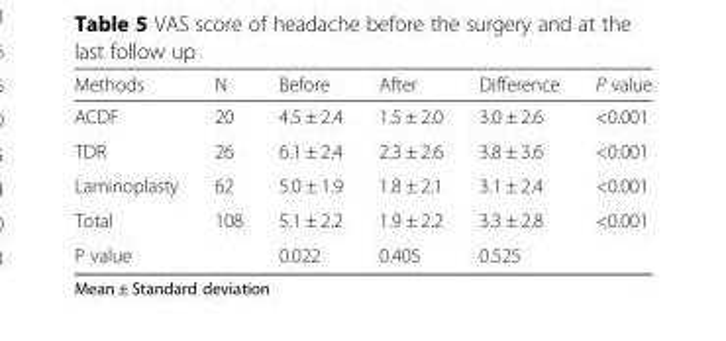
<table><thead><tr><td>Methods</td><td>N</td><td>Before</td><td>After</td><td>Difference</td><td>P value</td></tr></thead><tbody><tr><td>ACDF</td><td>20</td><td>4.5 ± 2.4</td><td>1.5 ± 2.0</td><td>3.0 ± 2.6</td><td>&lt;0.001</td></tr><tr><td>TDR</td><td>26</td><td>6.1 ± 2.4</td><td>2.3 ± 2.6</td><td>3.8 ± 3.6</td><td>&lt;0.001</td></tr><tr><td>Laminoplasty</td><td>62</td><td>5.0 ± 1.9</td><td>1.8 ± 2.1</td><td>3.1 ± 2.4</td><td>&lt;0.001</td></tr><tr><td>Total</td><td>108</td><td>5.1 ± 2.2</td><td>1.9 ± 2.2</td><td>3.3 ± 2.8</td><td>&lt;0.001</td></tr><tr><td>P value</td><td></td><td>0.022</td><td>0.405</td><td colspan="2">0.525</td></tr></tbody></table>